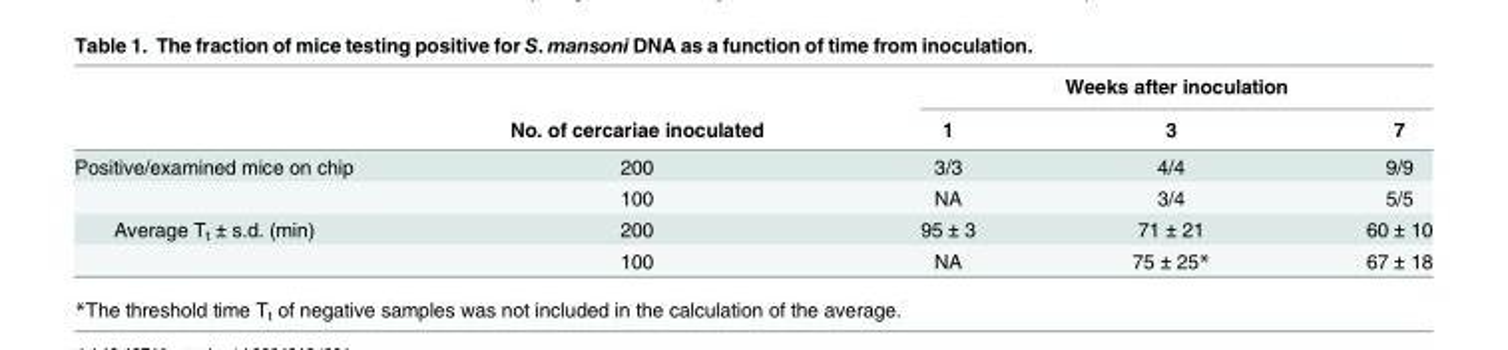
<table><thead><tr><td rowspan="2"></td><td rowspan="2">No. of cercariae inoculated</td><td colspan="3">Weeks after inoculation</td></tr><tr><td>1</td><td>3</td><td>7</td></tr></thead><tbody><tr><td rowspan="2">Positive/examined mice on chip</td><td>200</td><td>3/3</td><td>4/4</td><td>9/9</td></tr><tr><td>100</td><td>NA</td><td>3/4</td><td>5/5</td></tr><tr><td rowspan="2">Average T<sub>t</sub> ± s.d. (min)</td><td>200</td><td>95 ± 3</td><td>71 ± 21</td><td>60 ± 10</td></tr><tr><td>100</td><td>NA</td><td>75 ± 25*</td><td>67 ± 18</td></tr></tbody></table>